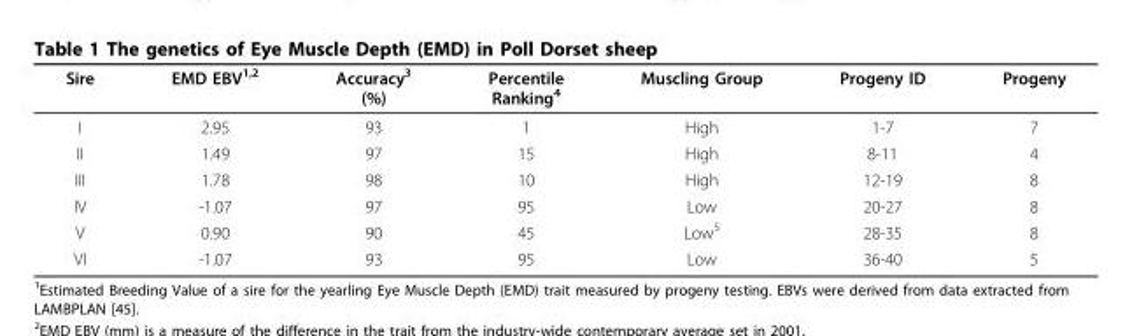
<table><thead><tr><td>Sire</td><td>EMD EBV<sup>1,2</sup></td><td>Accuracy<sup>3</sup> (%)</td><td>Percentile Ranking<sup>4</sup></td><td>Muscling Group</td><td>Progeny ID</td><td>Progeny</td></tr></thead><tbody><tr><td>I</td><td>2.95</td><td>93</td><td>1</td><td>High</td><td>1-7</td><td>7</td></tr><tr><td>II</td><td>1.49</td><td>97</td><td>15</td><td>High</td><td>8-11</td><td>4</td></tr><tr><td>III</td><td>1.78</td><td>98</td><td>10</td><td>High</td><td>12-19</td><td>8</td></tr><tr><td>IV</td><td>-1.07</td><td>97</td><td>95</td><td>Low</td><td>20-27</td><td>8</td></tr><tr><td>V</td><td>0.90</td><td>90</td><td>45</td><td>Low<sup>5</sup></td><td>28-35</td><td>8</td></tr><tr><td>VI</td><td>-1.07</td><td>93</td><td>95</td><td>Low</td><td>36-40</td><td>5</td></tr></tbody></table>